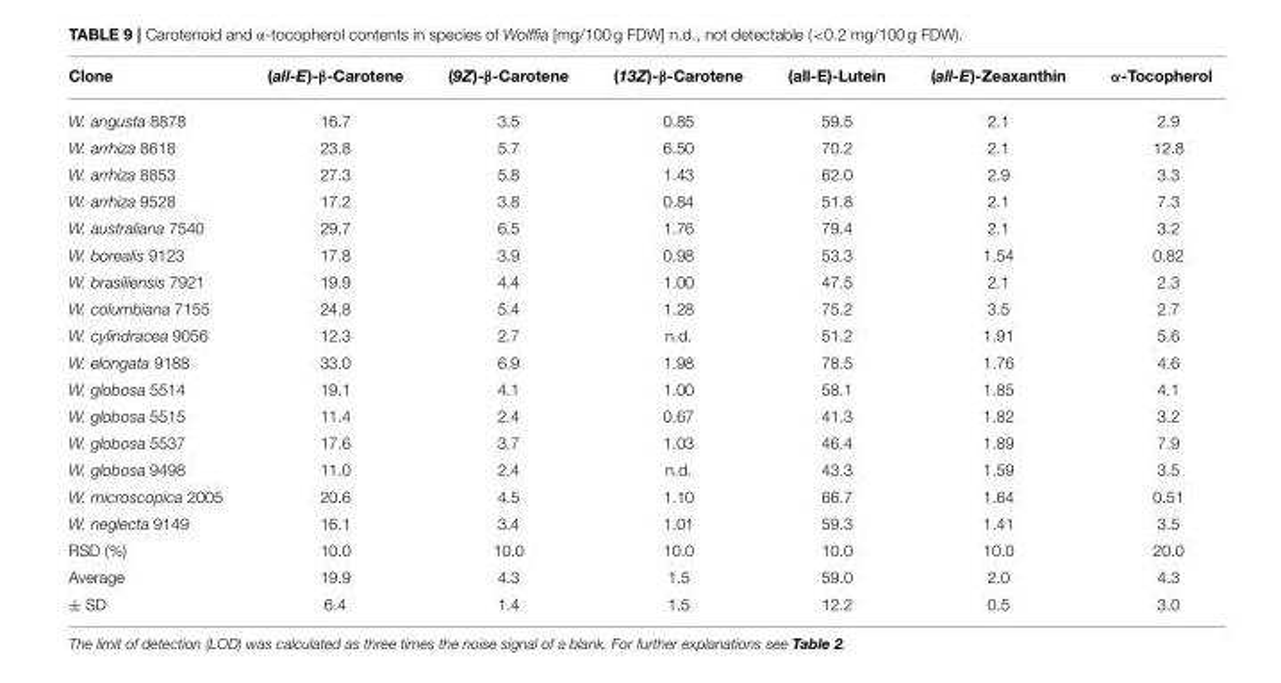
<table><thead><tr><td>Clone</td><td>(all-E)-β-Carotene</td><td>(9Z)-β-Carotene</td><td>(13Z)-β-Carotene</td><td>(all-E)-Lutein</td><td>(all-E)-Zeaxanthin</td><td>α-Tocopherol</td></tr></thead><tbody><tr><td>W. angusta 8878</td><td>16.7</td><td>3.5</td><td>0.85</td><td>59.5</td><td>2.1</td><td>2.9</td></tr><tr><td>W. arrhiza 8618</td><td>23.8</td><td>5.7</td><td>6.50</td><td>70.2</td><td>2.1</td><td>12.8</td></tr><tr><td>W. arrhiza 8853</td><td>27.3</td><td>5.8</td><td>1.43</td><td>62.0</td><td>2.9</td><td>3.3</td></tr><tr><td>W. arrhiza 9528</td><td>17.2</td><td>3.8</td><td>0.84</td><td>51.8</td><td>2.1</td><td>7.3</td></tr><tr><td>W. australiana 7540</td><td>29.7</td><td>6.5</td><td>1.76</td><td>79.4</td><td>2.1</td><td>3.2</td></tr><tr><td>W. borealis 9123</td><td>17.8</td><td>3.9</td><td>0.98</td><td>53.3</td><td>1.54</td><td>0.82</td></tr><tr><td>W. brasiliensis 7921</td><td>19.9</td><td>4.4</td><td>1.00</td><td>47.5</td><td>2.1</td><td>2.3</td></tr><tr><td>W. columbiana 7155</td><td>24.8</td><td>5.4</td><td>1.28</td><td>75.2</td><td>3.5</td><td>2.7</td></tr><tr><td>W. cylindracea 9056</td><td>12.3</td><td>2.7</td><td>n.d.</td><td>51.2</td><td>1.91</td><td>5.6</td></tr><tr><td>W. elongata 9188</td><td>33.0</td><td>6.9</td><td>1.98</td><td>78.5</td><td>1.76</td><td>4.6</td></tr><tr><td>W. globosa 5514</td><td>19.1</td><td>4.1</td><td>1.00</td><td>58.1</td><td>1.85</td><td>4.1</td></tr><tr><td>W. globosa 5515</td><td>11.4</td><td>2.4</td><td>0.67</td><td>41.3</td><td>1.82</td><td>3.2</td></tr><tr><td>W. globosa 5537</td><td>17.6</td><td>3.7</td><td>1.03</td><td>46.4</td><td>1.89</td><td>7.9</td></tr><tr><td>W. globosa 9498</td><td>11.0</td><td>2.4</td><td>n.d.</td><td>43.3</td><td>1.59</td><td>3.5</td></tr><tr><td>W. microscopica 2005</td><td>20.6</td><td>4.5</td><td>1.10</td><td>66.7</td><td>1.64</td><td>0.51</td></tr><tr><td>W. neglecta 9149</td><td>16.1</td><td>3.4</td><td>1.01</td><td>59.3</td><td>1.41</td><td>3.5</td></tr><tr><td>RSD (%)</td><td>10.0</td><td>10.0</td><td>10.0</td><td>10.0</td><td>10.0</td><td>20.0</td></tr><tr><td>Average</td><td>19.9</td><td>4.3</td><td>1.5</td><td>59.0</td><td>2.0</td><td>4.3</td></tr><tr><td>± SD</td><td>6.4</td><td>1.4</td><td>1.5</td><td>12.2</td><td>0.5</td><td>3.0</td></tr></tbody></table>